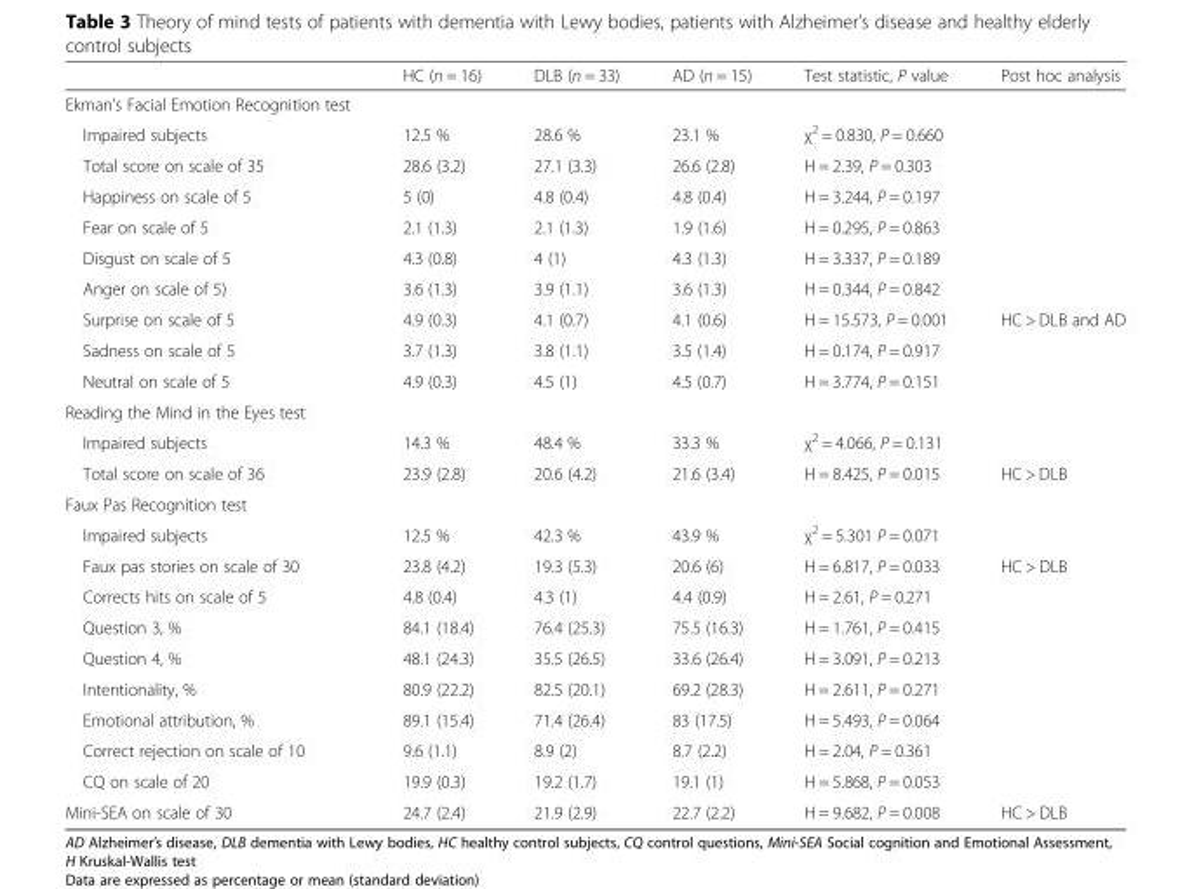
<table><thead><tr><td></td><td>HC (n = 16)</td><td>DLB (n = 33)</td><td>AD (n = 15)</td><td>Test statistic, P value</td><td>Post hoc analysis</td></tr></thead><tbody><tr><td colspan="6">Ekman’s Facial Emotion Recognition test</td></tr><tr><td>Impaired subjects</td><td>12.5 %</td><td>28.6 %</td><td>23.1 %</td><td>χ<sup>2</sup> = 0.830, P = 0.660</td><td></td></tr><tr><td>Total score on scale of 35</td><td>28.6 (3.2)</td><td>27.1 (3.3)</td><td>26.6 (2.8)</td><td>H = 2.39, P = 0.303</td><td></td></tr><tr><td>Happiness on scale of 5</td><td>5 (0)</td><td>4.8 (0.4)</td><td>4.8 (0.4)</td><td>H = 3.244, P = 0.197</td><td></td></tr><tr><td>Fear on scale of 5</td><td>2.1 (1.3)</td><td>2.1 (1.3)</td><td>1.9 (1.6)</td><td>H = 0.295, P = 0.863</td><td></td></tr><tr><td>Disgust on scale of 5</td><td>4.3 (0.8)</td><td>4 (1)</td><td>4.3 (1.3)</td><td>H = 3.337, P = 0.189</td><td></td></tr><tr><td>Anger on scale of 5)</td><td>3.6 (1.3)</td><td>3.9 (1.1)</td><td>3.6 (1.3)</td><td>H = 0.344, P = 0.842</td><td></td></tr><tr><td>Surprise on scale of 5</td><td>4.9 (0.3)</td><td>4.1 (0.7)</td><td>4.1 (0.6)</td><td>H = 15.573, P = 0.001</td><td>HC &gt; DLB and AD</td></tr><tr><td>Sadness on scale of 5</td><td>3.7 (1.3)</td><td>3.8 (1.1)</td><td>3.5 (1.4)</td><td>H = 0.174, P = 0.917</td><td></td></tr><tr><td>Neutral on scale of 5</td><td>4.9 (0.3)</td><td>4.5 (1)</td><td>4.5 (0.7)</td><td>H = 3.774, P = 0.151</td><td></td></tr><tr><td colspan="6">Reading the Mind in the Eyes test</td></tr><tr><td>Impaired subjects</td><td>14.3 %</td><td>48.4 %</td><td>33.3 %</td><td>χ<sup>2</sup> = 4.066, P = 0.131</td><td></td></tr><tr><td>Total score on scale of 36</td><td>23.9 (2.8)</td><td>20.6 (4.2)</td><td>21.6 (3.4)</td><td>H = 8.425, P = 0.015</td><td>HC &gt; DLB</td></tr><tr><td colspan="6">Faux Pas Recognition test</td></tr><tr><td>Impaired subjects</td><td>12.5 %</td><td>42.3 %</td><td>43.9 %</td><td>χ<sup>2</sup> = 5.301 P = 0.071</td><td></td></tr><tr><td>Faux pas stories on scale of 30</td><td>23.8 (4.2)</td><td>19.3 (5.3)</td><td>20.6 (6)</td><td>H = 6.817, P = 0.033</td><td>HC &gt; DLB</td></tr><tr><td>Corrects hits on scale of 5</td><td>4.8 (0.4)</td><td>4.3 (1)</td><td>4.4 (0.9)</td><td>H = 2.61, P = 0.271</td><td></td></tr><tr><td>Question 3, %</td><td>84.1 (18.4)</td><td>76.4 (25.3)</td><td>75.5 (16.3)</td><td>H = 1.761, P = 0.415</td><td></td></tr><tr><td>Question 4, %</td><td>48.1 (24.3)</td><td>35.5 (26.5)</td><td>33.6 (26.4)</td><td>H = 3.091, P = 0.213</td><td></td></tr><tr><td>Intentionality, %</td><td>80.9 (22.2)</td><td>82.5 (20.1)</td><td>69.2 (28.3)</td><td>H = 2.611, P = 0.271</td><td></td></tr><tr><td>Emotional attribution, %</td><td>89.1 (15.4)</td><td>71.4 (26.4)</td><td>83 (17.5)</td><td>H = 5.493, P = 0.064</td><td></td></tr><tr><td>Correct rejection on scale of 10</td><td>9.6 (1.1)</td><td>8.9 (2)</td><td>8.7 (2.2)</td><td>H = 2.04, P = 0.361</td><td></td></tr><tr><td>CQ on scale of 20</td><td>19.9 (0.3)</td><td>19.2 (1.7)</td><td>19.1 (1)</td><td>H = 5.868, P = 0.053</td><td></td></tr><tr><td>Mini-SEA on scale of 30</td><td>24.7 (2.4)</td><td>21.9 (2.9)</td><td>22.7 (2.2)</td><td>H = 9.682, P = 0.008</td><td>HC &gt; DLB</td></tr></tbody></table>